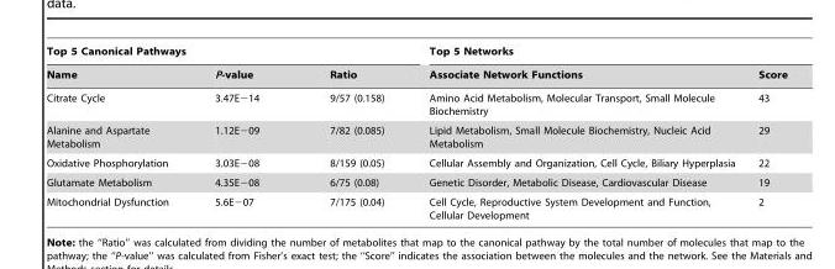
<table><thead><tr><td colspan="3">Top 5 Canonical Pathways</td><td colspan="2">Top 5 Networks</td></tr><tr><td>Name</td><td>P-value</td><td>Ratio</td><td>Associate Network Functions</td><td>Score</td></tr></thead><tbody><tr><td>Citrate Cycle</td><td>3.47E−14</td><td>9/57 (0.158)</td><td>Amino Acid Metabolism, Molecular Transport, Small Molecule Biochemistry</td><td>43</td></tr><tr><td>Alanine and Aspartate Metabolism</td><td>1.12E−09</td><td>7/82 (0.085)</td><td>Lipid Metabolism, Small Molecule Biochemistry, Nucleic Acid Metabolism</td><td>29</td></tr><tr><td>Oxidative Phosphorylation</td><td>3.03E−08</td><td>8/159 (0.05)</td><td>Cellular Assembly and Organization, Cell Cycle, Biliary Hyperplasia</td><td>22</td></tr><tr><td>Glutamate Metabolism</td><td>4.35E−08</td><td>6/75 (0.08)</td><td>Genetic Disorder, Metabolic Disease, Cardiovascular Disease</td><td>19</td></tr><tr><td>Mitochondrial Dysfunction</td><td>5.6E−07</td><td>7/175 (0.04)</td><td>Cell Cycle, Reproductive System Development and Function, Cellular Development</td><td>2</td></tr></tbody></table>